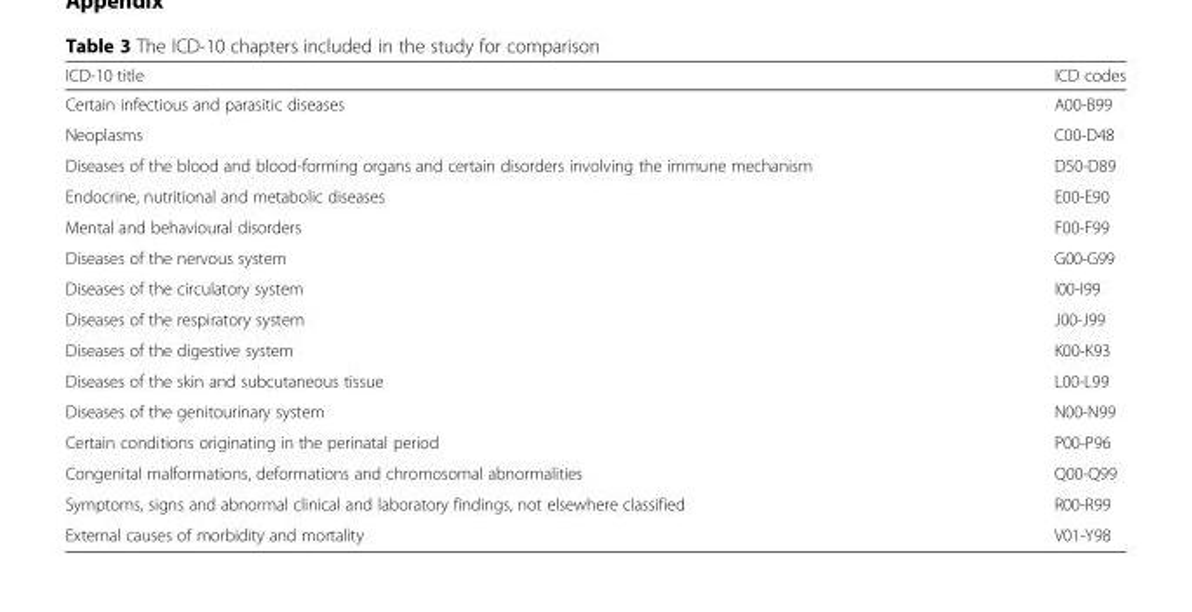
<table><thead><tr><td>ICD-10 title</td><td>ICD codes</td></tr></thead><tbody><tr><td>Certain infectious and parasitic diseases</td><td>A00-B99</td></tr><tr><td>Neoplasms</td><td>C00-D48</td></tr><tr><td>Diseases of the blood and blood-forming organs and certain disorders involving the immune mechanism</td><td>D50-D89</td></tr><tr><td>Endocrine, nutritional and metabolic diseases</td><td>E00-E90</td></tr><tr><td>Mental and behavioural disorders</td><td>F00-F99</td></tr><tr><td>Diseases of the nervous system</td><td>G00-G99</td></tr><tr><td>Diseases of the circulatory system</td><td>I00-I99</td></tr><tr><td>Diseases of the respiratory system</td><td>J00-J99</td></tr><tr><td>Diseases of the digestive system</td><td>K00-K93</td></tr><tr><td>Diseases of the skin and subcutaneous tissue</td><td>L00-L99</td></tr><tr><td>Diseases of the genitourinary system</td><td>N00-N99</td></tr><tr><td>Certain conditions originating in the perinatal period</td><td>P00-P96</td></tr><tr><td>Congenital malformations, deformations and chromosomal abnormalities</td><td>Q00-Q99</td></tr><tr><td>Symptoms, signs and abnormal clinical and laboratory findings, not elsewhere classified</td><td>R00-R99</td></tr><tr><td>External causes of morbidity and mortality</td><td>V01-Y98</td></tr></tbody></table>